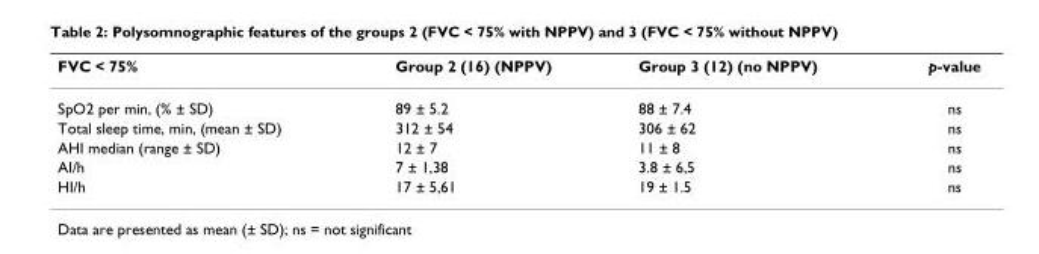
<table><thead><tr><td>FVC &lt; 75%</td><td>Group 2 (16) (NPPV)</td><td>Group 3 (12) (no NPPV)</td><td>p-value</td></tr></thead><tbody><tr><td>SpO2 per min, (% ± SD)</td><td>89 ± 5.2</td><td>88 ± 7.4</td><td>ns</td></tr><tr><td>Total sleep time, min, (mean ± SD)</td><td>312 ± 54</td><td>306 ± 62</td><td>ns</td></tr><tr><td>AHI median (range ± SD)</td><td>12 ± 7</td><td>11 ± 8</td><td>ns</td></tr><tr><td>AI/h</td><td>7 ± 1,38</td><td>3.8 ± 6,5</td><td>ns</td></tr><tr><td>HI/h</td><td>17 ± 5,61</td><td>19 ± 1.5</td><td>ns</td></tr></tbody></table>